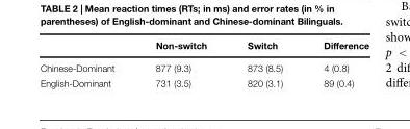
<table><thead><tr><td></td><td>Non-switch</td><td>Switch</td><td>Difference</td></tr></thead><tbody><tr><td>Chinese-Dominant</td><td>877 (9.3)</td><td>873 (8.5)</td><td>4 (0.8)</td></tr><tr><td>English-Dominant</td><td>731 (3.5)</td><td>820 (3.1)</td><td>89 (0.4)</td></tr></tbody></table>